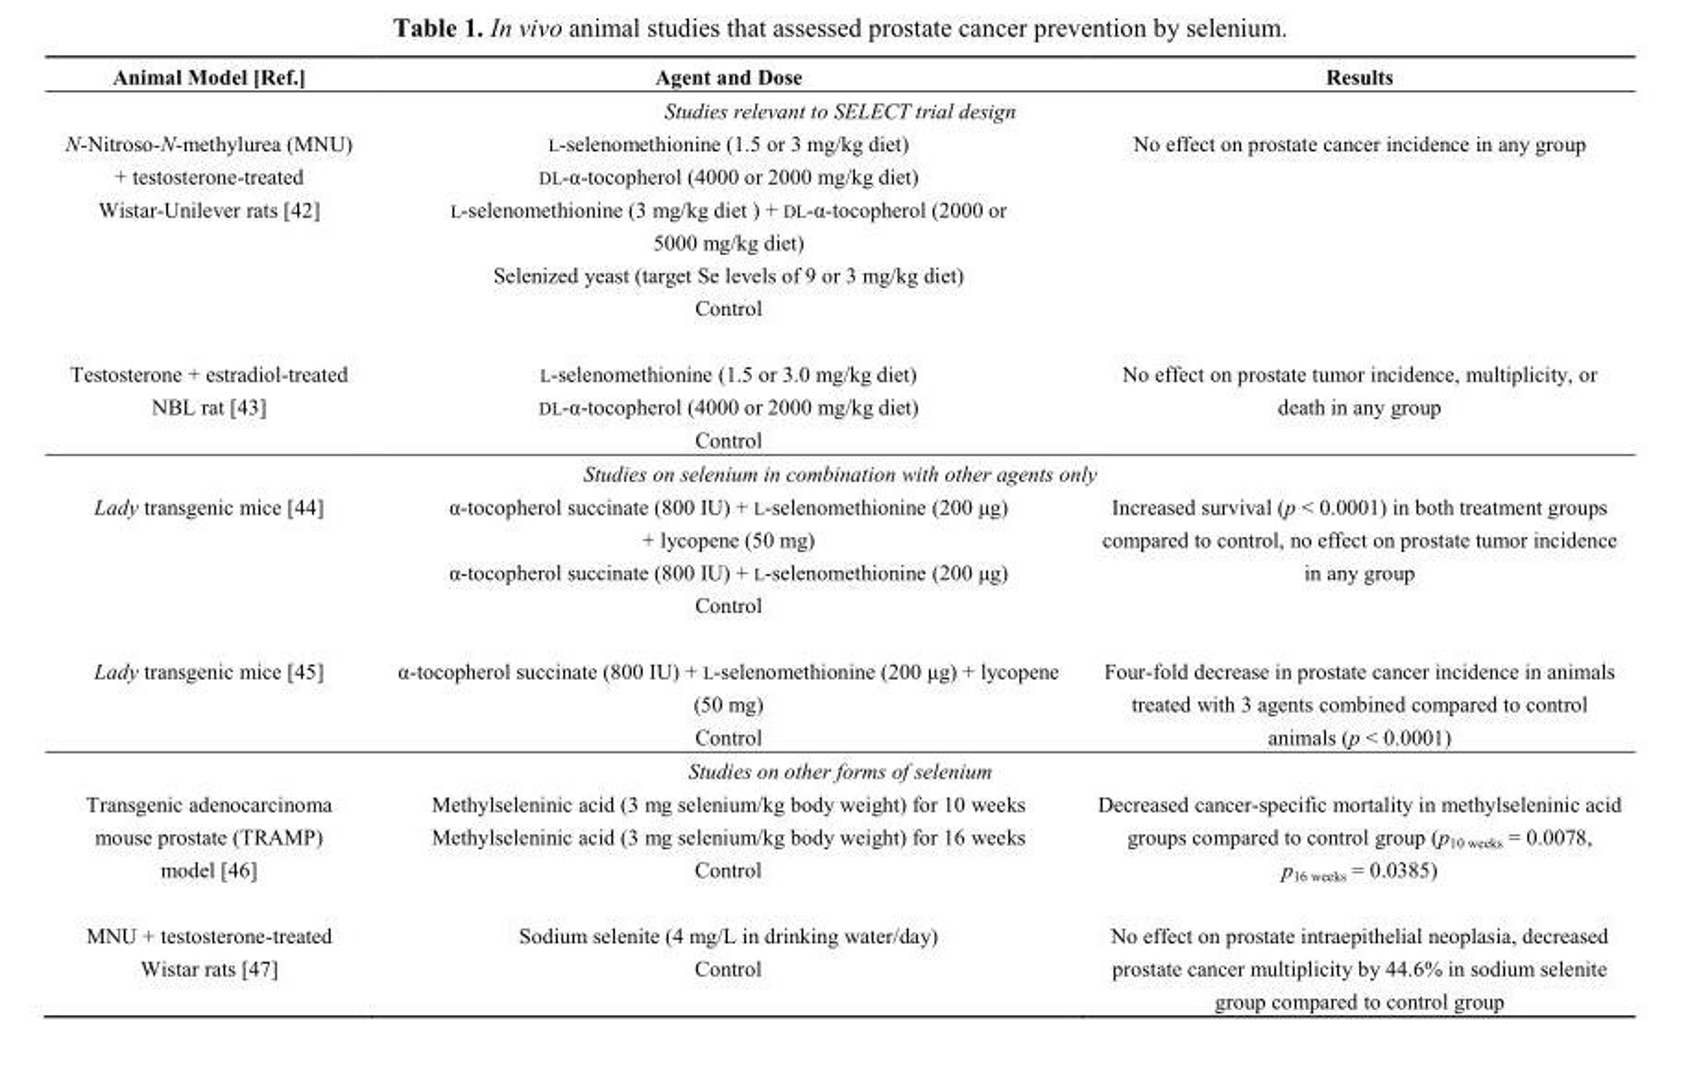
<table><thead><tr><td>Animal Model [Ref.]</td><td>Agent and Dose</td><td>Results</td></tr></thead><tbody><tr><td colspan="3">Studies relevant to SELECT trial design</td></tr><tr><td>N-Nitroso-N-methylurea (MNU) + testosterone-treated Wistar-Unilever rats [42]</td><td>L-selenomethionine (1.5 or 3 mg/kg diet) DL-α-tocopherol (4000 or 2000 mg/kg diet) L-selenomethionine (3 mg/kg diet ) + DL-α-tocopherol (2000 or 5000 mg/kg diet) Selenized yeast (target Se levels of 9 or 3 mg/kg diet) Control</td><td>No effect on prostate cancer incidence in any group</td></tr><tr><td>Testosterone + estradiol-treated NBL rat [43]</td><td>L-selenomethionine (1.5 or 3.0 mg/kg diet) DL-α-tocopherol (4000 or 2000 mg/kg diet) Control</td><td>No effect on prostate tumor incidence, multiplicity, or death in any group</td></tr><tr><td colspan="3">Studies on selenium in combination with other agents only</td></tr><tr><td>Lady transgenic mice [44]</td><td>α-tocopherol succinate (800 IU) + L-selenomethionine (200 μg) + lycopene (50 mg) α-tocopherol succinate (800 IU) + L-selenomethionine (200 μg) Control</td><td>Increased survival (p &lt; 0.0001) in both treatment groups compared to control, no effect on prostate tumor incidence in any group</td></tr><tr><td>Lady transgenic mice [45]</td><td>α-tocopherol succinate (800 IU) + L-selenomethionine (200 μg) + lycopene (50 mg) Control</td><td>Four-fold decrease in prostate cancer incidence in animals treated with 3 agents combined compared to control animals (p &lt; 0.0001)</td></tr><tr><td colspan="3">Studies on other forms of selenium</td></tr><tr><td>Transgenic adenocarcinoma mouse prostate (TRAMP) model [46]</td><td>Methylseleninic acid (3 mg selenium/kg body weight) for 10 weeks Methylseleninic acid (3 mg selenium/kg body weight) for 16 weeks Control</td><td>Decreased cancer-specific mortality in methylseleninic acid groups compared to control group (p<sub>10 weeks</sub> = 0.0078, p<sub>16 weeks</sub> = 0.0385)</td></tr><tr><td>MNU + testosterone-treated Wistar rats [47]</td><td>Sodium selenite (4 mg/L in drinking water/day) Control</td><td>No effect on prostate intraepithelial neoplasia, decreased prostate cancer multiplicity by 44.6% in sodium selenite group compared to control group</td></tr></tbody></table>